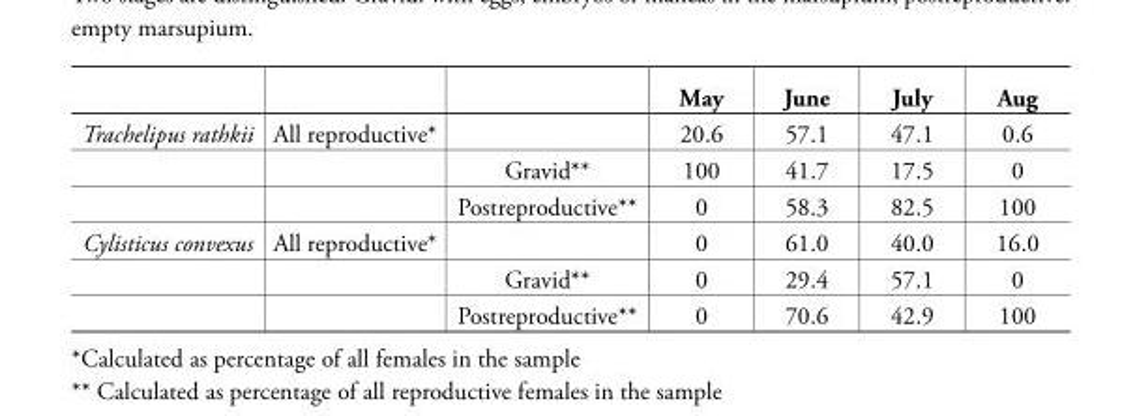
<table><thead><tr><td></td><td></td><td></td><td>May</td><td>June</td><td>July</td><td>Aug</td></tr></thead><tbody><tr><td rowspan="3">Trachelipus rathkii</td><td>All reproductive*</td><td></td><td>20.6</td><td>57.1</td><td>47.1</td><td>0.6</td></tr><tr><td></td><td>Gravid**</td><td>100</td><td>41.7</td><td>17.5</td><td>0</td></tr><tr><td></td><td>Postreproductive**</td><td>0</td><td>58.3</td><td>82.5</td><td>100</td></tr><tr><td rowspan="3">Cylisticus convexus</td><td>All reproductive*</td><td></td><td>0</td><td>61.0</td><td>40.0</td><td>16.0</td></tr><tr><td></td><td>Gravid**</td><td>0</td><td>29.4</td><td>57.1</td><td>0</td></tr><tr><td></td><td>Postreproductive**</td><td>0</td><td>70.6</td><td>42.9</td><td>100</td></tr></tbody></table>